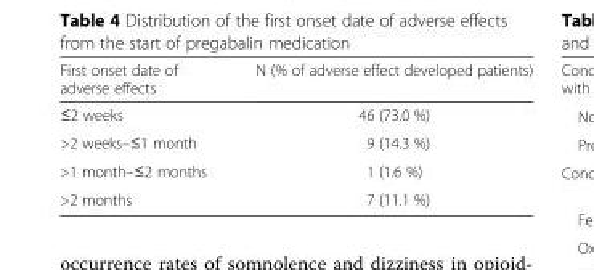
<table><thead><tr><td>First onset date of adverse effects</td><td>N (% of adverse effect developed patients)</td></tr></thead><tbody><tr><td>≤2 weeks</td><td>46 (73.0 %)</td></tr><tr><td>&gt;2 weeks–≤1 month</td><td>9 (14.3 %)</td></tr><tr><td>&gt;1 month–≤2 months</td><td>1 (1.6 %)</td></tr><tr><td>&gt;2 months</td><td>7 (11.1 %)</td></tr></tbody></table>